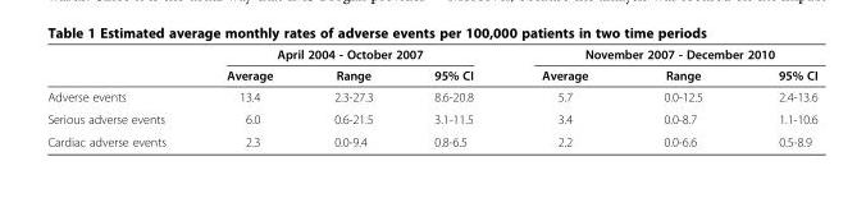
<table><thead><tr><td rowspan="2"></td><td colspan="3">April 2004 - October 2007</td><td colspan="3">November 2007 - December 2010</td></tr><tr><td>Average</td><td>Range</td><td>95% CI</td><td>Average</td><td>Range</td><td>95% CI</td></tr></thead><tbody><tr><td>Adverse events</td><td>13.4</td><td>2.3-27.3</td><td>8.6-20.8</td><td>5.7</td><td>0.0-12.5</td><td>2.4-13.6</td></tr><tr><td>Serious adverse events</td><td>6.0</td><td>0.6-21.5</td><td>3.1-11.5</td><td>3.4</td><td>0.0-8.7</td><td>1.1-10.6</td></tr><tr><td>Cardiac adverse events</td><td>2.3</td><td>0.0-9.4</td><td>0.8-6.5</td><td>2.2</td><td>0.0-6.6</td><td>0.5-8.9</td></tr></tbody></table>